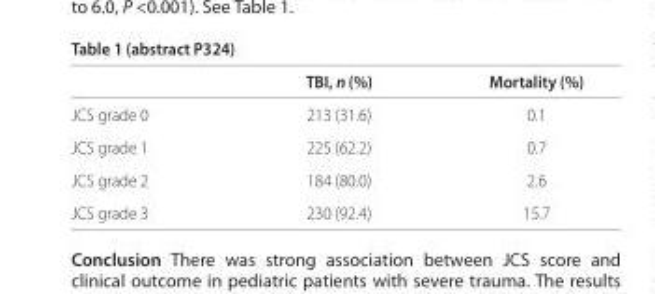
<table><thead><tr><td></td><td>TBI, n (%)</td><td>Mortality (%)</td></tr></thead><tbody><tr><td>JCS grade 0</td><td>213 (31.6)</td><td>0.1</td></tr><tr><td>JCS grade 1</td><td>225 (62.2)</td><td>0.7</td></tr><tr><td>JCS grade 2</td><td>184 (80.0)</td><td>2.6</td></tr><tr><td>JCS grade 3</td><td>230 (92.4)</td><td>15.7</td></tr></tbody></table>